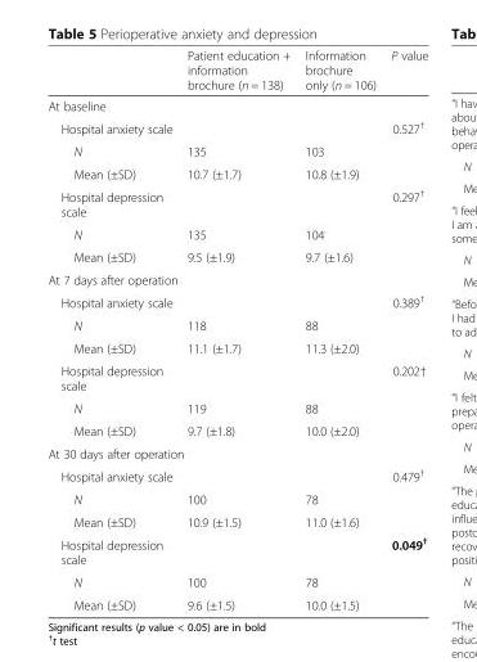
<table><thead><tr><td></td><td>Patient education + information brochure (n = 138)</td><td>Information brochure only (n = 106)</td><td>P value</td></tr></thead><tbody><tr><td colspan="4">At baseline</td></tr><tr><td>Hospital anxiety scale</td><td></td><td></td><td>0.527<sup>†</sup></td></tr><tr><td>N</td><td>135</td><td>103</td><td></td></tr><tr><td>Mean (±SD)</td><td>10.7 (±1.7)</td><td>10.8 (±1.9)</td><td></td></tr><tr><td>Hospital depression scale</td><td></td><td></td><td>0.297<sup>†</sup></td></tr><tr><td>N</td><td>135</td><td>104</td><td></td></tr><tr><td>Mean (±SD)</td><td>9.5 (±1.9)</td><td>9.7 (±1.6)</td><td></td></tr><tr><td colspan="4">At 7 days after operation</td></tr><tr><td>Hospital anxiety scale</td><td></td><td></td><td>0.389<sup>†</sup></td></tr><tr><td>N</td><td>118</td><td>88</td><td></td></tr><tr><td>Mean (±SD)</td><td>11.1 (±1.7)</td><td>11.3 (±2.0)</td><td></td></tr><tr><td>Hospital depression scale</td><td></td><td></td><td>0.202†</td></tr><tr><td>N</td><td>119</td><td>88</td><td></td></tr><tr><td>Mean (±SD)</td><td>9.7 (±1.8)</td><td>10.0 (±2.0)</td><td></td></tr><tr><td colspan="4">At 30 days after operation</td></tr><tr><td>Hospital anxiety scale</td><td></td><td></td><td>0.479<sup>†</sup></td></tr><tr><td>N</td><td>100</td><td>78</td><td></td></tr><tr><td>Mean (±SD)</td><td>10.9 (±1.5)</td><td>11.0 (±1.6)</td><td></td></tr><tr><td>Hospital depression scale</td><td></td><td></td><td>0.049<sup>†</sup></td></tr><tr><td>N</td><td>100</td><td>78</td><td></td></tr><tr><td>Mean (±SD)</td><td>9.6 (±1.5)</td><td>10.0 (±1.5)</td><td></td></tr></tbody></table>